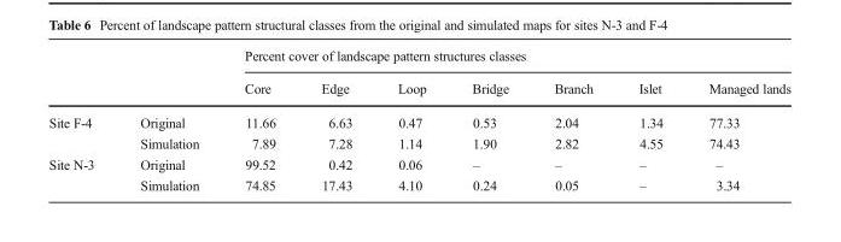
<table><thead><tr><td rowspan="2"></td><td rowspan="2"></td><td colspan="7">Percent cover of landscape pattern structures classes</td></tr><tr><td>Core</td><td>Edge</td><td>Loop</td><td>Bridge</td><td>Branch</td><td>Islet</td><td>Managed lands</td></tr></thead><tbody><tr><td rowspan="2">Site F-4</td><td>Original</td><td>11.66</td><td>6.63</td><td>0.47</td><td>0.53</td><td>2.04</td><td>1.34</td><td>77.33</td></tr><tr><td>Simulation</td><td>7.89</td><td>7.28</td><td>1.14</td><td>1.90</td><td>2.82</td><td>4.55</td><td>74.43</td></tr><tr><td rowspan="2">Site N-3</td><td>Original</td><td>99.52</td><td>0.42</td><td>0.06</td><td>–</td><td>–</td><td>–</td><td>–</td></tr><tr><td>Simulation</td><td>74.85</td><td>17.43</td><td>4.10</td><td>0.24</td><td>0.05</td><td>–</td><td>3.34</td></tr></tbody></table>